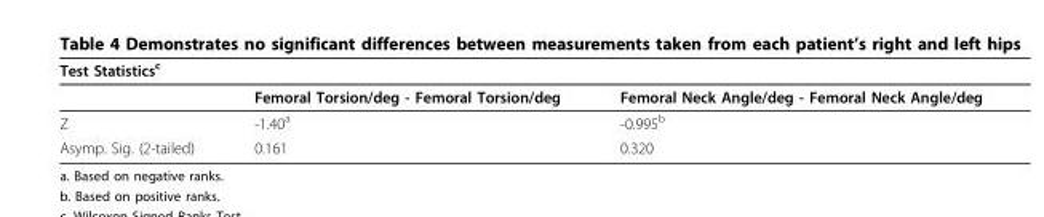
<table><thead><tr><td colspan="3">Test Statistics<sup>c</sup></td></tr><tr><td></td><td>Femoral Torsion/deg - Femoral Torsion/deg</td><td>Femoral Neck Angle/deg - Femoral Neck Angle/deg</td></tr></thead><tbody><tr><td>Z</td><td>-1.40<sup>a</sup></td><td>-0.995<sup>b</sup></td></tr><tr><td>Asymp. Sig. (2-tailed)</td><td>0.161</td><td>0.320</td></tr></tbody></table>